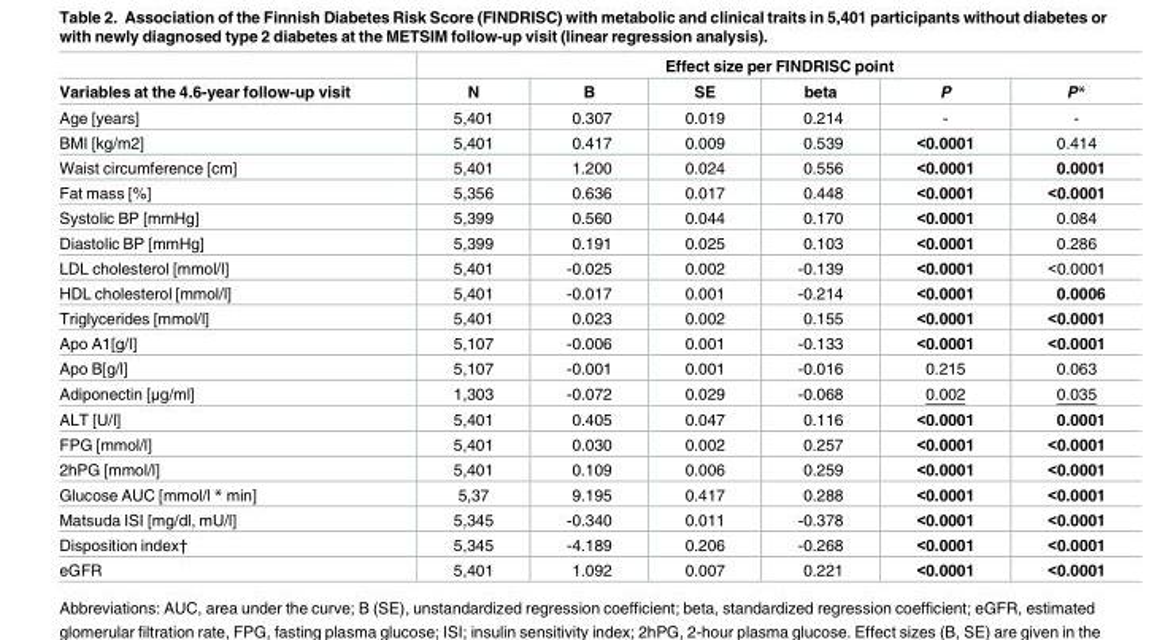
<table><thead><tr><td rowspan="2">Variables at the 4.6-year follow-up visit</td><td colspan="6">Effect size per FINDRISC point</td></tr><tr><td>N</td><td>B</td><td>SE</td><td>beta</td><td>P</td><td>P*</td></tr></thead><tbody><tr><td>Age [years]</td><td>5,401</td><td>0.307</td><td>0.019</td><td>0.214</td><td>-</td><td>-</td></tr><tr><td>BMI [kg/m2]</td><td>5,401</td><td>0.417</td><td>0.009</td><td>0.539</td><td>&lt;0.0001</td><td>0.414</td></tr><tr><td>Waist circumference [cm]</td><td>5,401</td><td>1.200</td><td>0.024</td><td>0.556</td><td>&lt;0.0001</td><td>0.0001</td></tr><tr><td>Fat mass [%]</td><td>5,356</td><td>0.636</td><td>0.017</td><td>0.448</td><td>&lt;0.0001</td><td>&lt;0.0001</td></tr><tr><td>Systolic BP [mmHg]</td><td>5,399</td><td>0.560</td><td>0.044</td><td>0.170</td><td>&lt;0.0001</td><td>0.084</td></tr><tr><td>Diastolic BP [mmHg]</td><td>5,399</td><td>0.191</td><td>0.025</td><td>0.103</td><td>&lt;0.0001</td><td>0.286</td></tr><tr><td>LDL cholesterol [mmol/l]</td><td>5,401</td><td>-0.025</td><td>0.002</td><td>-0.139</td><td>&lt;0.0001</td><td>&lt;0.0001</td></tr><tr><td>HDL cholesterol [mmol/l]</td><td>5,401</td><td>-0.017</td><td>0.001</td><td>-0.214</td><td>&lt;0.0001</td><td>0.0006</td></tr><tr><td>Triglycerides [mmol/l]</td><td>5,401</td><td>0.023</td><td>0.002</td><td>0.155</td><td>&lt;0.0001</td><td>&lt;0.0001</td></tr><tr><td>Apo A1[g/l]</td><td>5,107</td><td>-0.006</td><td>0.001</td><td>-0.133</td><td>&lt;0.0001</td><td>&lt;0.0001</td></tr><tr><td>Apo B[g/l]</td><td>5,107</td><td>-0.001</td><td>0.001</td><td>-0.016</td><td>0.215</td><td>0.063</td></tr><tr><td>Adiponectin [μg/ml]</td><td>1,303</td><td>-0.072</td><td>0.029</td><td>-0.068</td><td>0.002</td><td>0.035</td></tr><tr><td>ALT [U/l]</td><td>5,401</td><td>0.405</td><td>0.047</td><td>0.116</td><td>&lt;0.0001</td><td>0.0001</td></tr><tr><td>FPG [mmol/l]</td><td>5,401</td><td>0.030</td><td>0.002</td><td>0.257</td><td>&lt;0.0001</td><td>&lt;0.0001</td></tr><tr><td>2hPG [mmol/l]</td><td>5,401</td><td>0.109</td><td>0.006</td><td>0.259</td><td>&lt;0.0001</td><td>&lt;0.0001</td></tr><tr><td>Glucose AUC [mmol/l * min]</td><td>5,37</td><td>9.195</td><td>0.417</td><td>0.288</td><td>&lt;0.0001</td><td>&lt;0.0001</td></tr><tr><td>Matsuda ISI [mg/dl, mU/l]</td><td>5,345</td><td>-0.340</td><td>0.011</td><td>-0.378</td><td>&lt;0.0001</td><td>&lt;0.0001</td></tr><tr><td>Disposition index†</td><td>5,345</td><td>-4.189</td><td>0.206</td><td>-0.268</td><td>&lt;0.0001</td><td>&lt;0.0001</td></tr><tr><td>eGFR</td><td>5,401</td><td>1.092</td><td>0.007</td><td>0.221</td><td>&lt;0.0001</td><td>&lt;0.0001</td></tr></tbody></table>